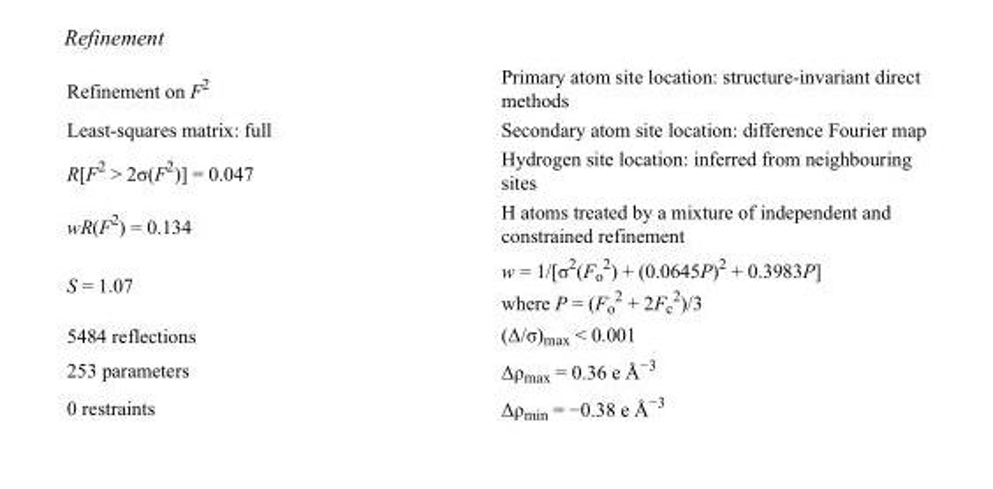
<table><tbody><tr><td>Refinement on F<sup>2</sup></td><td>Primary atom site location: structure-invariant direct methods</td></tr><tr><td>Least-squares matrix: full</td><td>Secondary atom site location: difference Fourier map</td></tr><tr><td>R[F<sup>2</sup> &gt; 2σ(F<sup>2</sup>)] = 0.047</td><td>Hydrogen site location: inferred from neighbouring sites</td></tr><tr><td>wR(F<sup>2</sup>) = 0.134</td><td>H atoms treated by a mixture of independent and constrained refinement</td></tr><tr><td>S = 1.07</td><td>w = 1/[σ<sup>2</sup>(F<sub>o</sub> <sup>2</sup>) + (0.0645P)<sup>2</sup> + 0.3983P] where P = (F<sub>o</sub> <sup>2</sup> + 2F<sub>c</sub> <sup>2</sup>)/3</td></tr><tr><td>5484 reflections</td><td>(Δ/σ)<sub>max</sub> &lt; 0.001</td></tr><tr><td>253 parameters</td><td>Δρ<sub>max</sub> = 0.36 e Å<sup>−3</sup></td></tr><tr><td>0 restraints</td><td>Δρ<sub>min</sub> = −0.38 e Å<sup>−3</sup></td></tr></tbody></table>